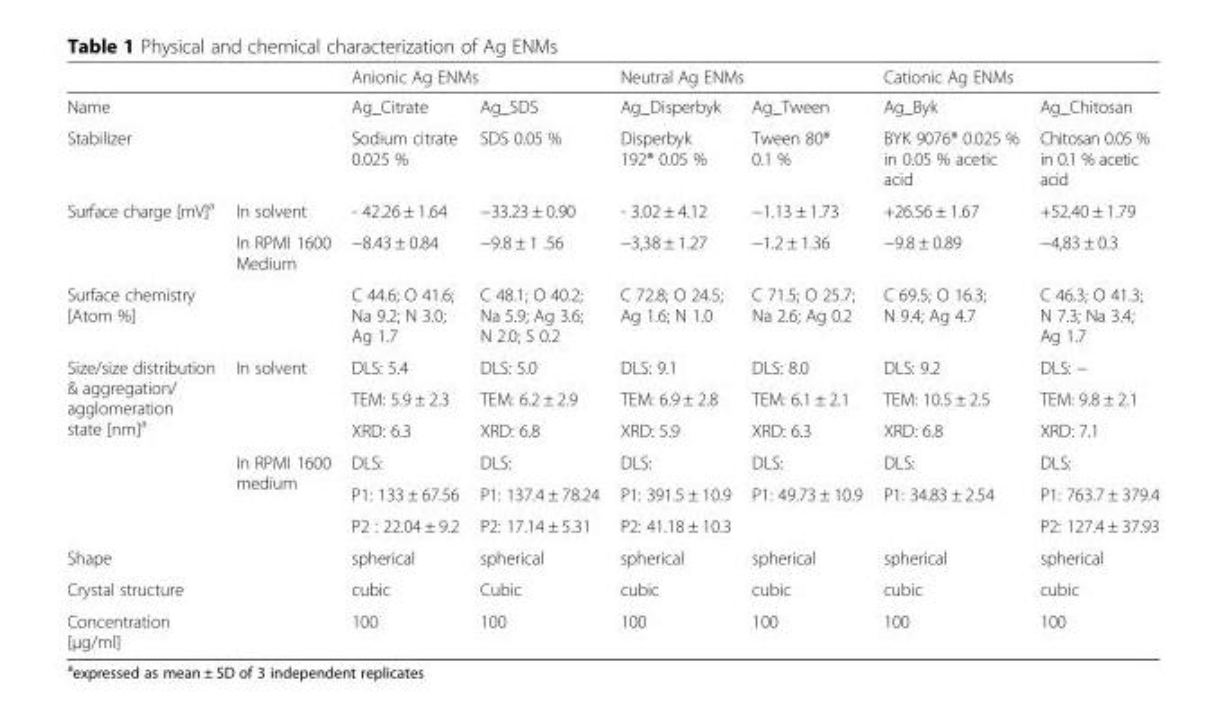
<table><thead><tr><td></td><td></td><td colspan="2">Anionic Ag ENMs</td><td colspan="2">Neutral Ag ENMs</td><td colspan="2">Cationic Ag ENMs</td></tr><tr><td colspan="2">Name</td><td>Ag_Citrate</td><td>Ag_SDS</td><td>Ag_Disperbyk</td><td>Ag_Tween</td><td>Ag_Byk</td><td>Ag_Chitosan</td></tr></thead><tbody><tr><td>Stabilizer</td><td></td><td>Sodium citrate 0.025 %</td><td>SDS 0.05 %</td><td>Disperbyk 192® 0.05 %</td><td>Tween 80® 0.1 %</td><td>BYK 9076® 0.025 % in 0.05 % acetic acid</td><td>Chitosan 0.05 % in 0.1 % acetic acid</td></tr><tr><td rowspan="2">Surface charge [mV]<sup>a</sup></td><td>In solvent</td><td>- 42.26 ± 1.64</td><td>−33.23 ± 0.90</td><td>- 3.02 ± 4.12</td><td>−1.13 ± 1.73</td><td>+26.56 ± 1.67</td><td>+52.40 ± 1.79</td></tr><tr><td>In RPMI 1600 Medium</td><td>−8.43 ± 0.84</td><td>−9.8 ± 1 .56</td><td>−3,38 ± 1.27</td><td>−1.2 ± 1.36</td><td>−9.8 ± 0.89</td><td>−4,83 ± 0.3</td></tr><tr><td colspan="2">Surface chemistry [Atom %]</td><td>C 44.6; O 41.6; Na 9.2; N 3.0; Ag 1.7</td><td>C 48.1; O 40.2; Na 5.9; Ag 3.6; N 2.0; S 0.2</td><td>C 72.8; O 24.5; Ag 1.6; N 1.0</td><td>C 71.5; O 25.7; Na 2.6; Ag 0.2</td><td>C 69.5; O 16.3; N 9.4; Ag 4.7</td><td>C 46.3; O 41.3; N 7.3; Na 3.4; Ag 1.7</td></tr><tr><td rowspan="6">Size/size distribution &amp; aggregation/ agglomeration state [nm]<sup>a</sup></td><td rowspan="3">In solvent</td><td>DLS: 5.4</td><td>DLS: 5.0</td><td>DLS: 9.1</td><td>DLS: 8.0</td><td>DLS: 9.2</td><td>DLS: −</td></tr><tr><td>TEM: 5.9 ± 2.3</td><td>TEM: 6.2 ± 2.9</td><td>TEM: 6.9 ± 2.8</td><td>TEM: 6.1 ± 2.1</td><td>TEM: 10.5 ± 2.5</td><td>TEM: 9.8 ± 2.1</td></tr><tr><td>XRD: 6.3</td><td>XRD: 6.8</td><td>XRD: 5.9</td><td>XRD: 6.3</td><td>XRD: 6.8</td><td>XRD: 7.1</td></tr><tr><td rowspan="3">In RPMI 1600 medium</td><td>DLS:</td><td>DLS:</td><td>DLS:</td><td>DLS:</td><td>DLS:</td><td>DLS:</td></tr><tr><td>P1: 133 ± 67.56</td><td>P1: 137.4 ± 78.24</td><td>P1: 391.5 ± 10.9</td><td>P1: 49.73 ± 10.9</td><td>P1: 34.83 ± 2.54</td><td>P1: 763.7 ± 379.4</td></tr><tr><td>P2 : 22.04 ± 9.2</td><td>P2: 17.14 ± 5.31</td><td>P2: 41.18 ± 10.3</td><td></td><td></td><td>P2: 127.4 ± 37.93</td></tr><tr><td colspan="2">Shape</td><td>spherical</td><td>spherical</td><td>spherical</td><td>spherical</td><td>spherical</td><td>spherical</td></tr><tr><td colspan="2">Crystal structure</td><td>cubic</td><td>Cubic</td><td>cubic</td><td>cubic</td><td>cubic</td><td>cubic</td></tr><tr><td colspan="2">Concentration [μg/ml]</td><td>100</td><td>100</td><td>100</td><td>100</td><td>100</td><td>100</td></tr></tbody></table>